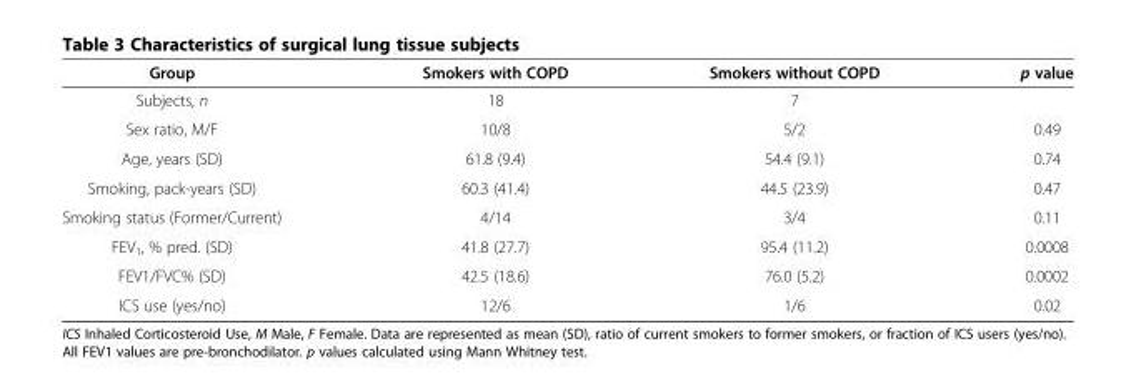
<table><thead><tr><td>Group</td><td>Smokers with COPD</td><td>Smokers without COPD</td><td>p value</td></tr></thead><tbody><tr><td>Subjects, n</td><td>18</td><td>7</td><td></td></tr><tr><td>Sex ratio, M/F</td><td>10/8</td><td>5/2</td><td>0.49</td></tr><tr><td>Age, years (SD)</td><td>61.8 (9.4)</td><td>54.4 (9.1)</td><td>0.74</td></tr><tr><td>Smoking, pack-years (SD)</td><td>60.3 (41.4)</td><td>44.5 (23.9)</td><td>0.47</td></tr><tr><td>Smoking status (Former/Current)</td><td>4/14</td><td>3/4</td><td>0.11</td></tr><tr><td>FEV<sub>1</sub>, % pred. (SD)</td><td>41.8 (27.7)</td><td>95.4 (11.2)</td><td>0.0008</td></tr><tr><td>FEV1/FVC% (SD)</td><td>42.5 (18.6)</td><td>76.0 (5.2)</td><td>0.0002</td></tr><tr><td>ICS use (yes/no)</td><td>12/6</td><td>1/6</td><td>0.02</td></tr></tbody></table>